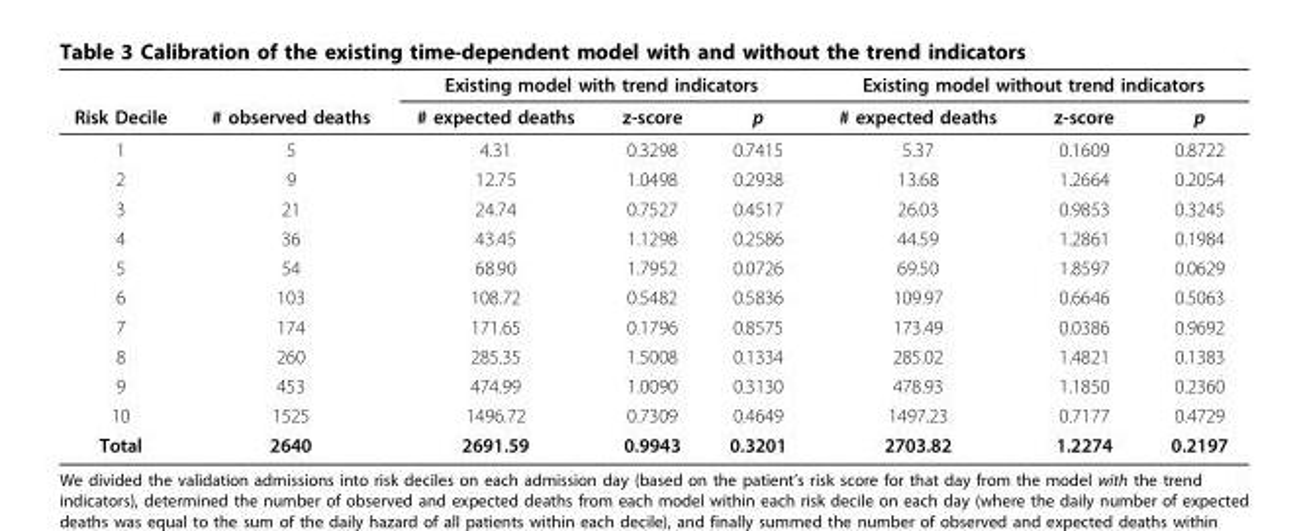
<table><thead><tr><td rowspan="2">Risk Decile</td><td rowspan="2"># observed deaths</td><td colspan="3">Existing model with trend indicators</td><td colspan="3">Existing model without trend indicators</td></tr><tr><td># expected deaths</td><td>z-score</td><td>p</td><td># expected deaths</td><td>z-score</td><td>p</td></tr></thead><tbody><tr><td>1</td><td>5</td><td>4.31</td><td>0.3298</td><td>0.7415</td><td>5.37</td><td>0.1609</td><td>0.8722</td></tr><tr><td>2</td><td>9</td><td>12.75</td><td>1.0498</td><td>0.2938</td><td>13.68</td><td>1.2664</td><td>0.2054</td></tr><tr><td>3</td><td>21</td><td>24.74</td><td>0.7527</td><td>0.4517</td><td>26.03</td><td>0.9853</td><td>0.3245</td></tr><tr><td>4</td><td>36</td><td>43.45</td><td>1.1298</td><td>0.2586</td><td>44.59</td><td>1.2861</td><td>0.1984</td></tr><tr><td>5</td><td>54</td><td>68.90</td><td>1.7952</td><td>0.0726</td><td>69.50</td><td>1.8597</td><td>0.0629</td></tr><tr><td>6</td><td>103</td><td>108.72</td><td>0.5482</td><td>0.5836</td><td>109.97</td><td>0.6646</td><td>0.5063</td></tr><tr><td>7</td><td>174</td><td>171.65</td><td>0.1796</td><td>0.8575</td><td>173.49</td><td>0.0386</td><td>0.9692</td></tr><tr><td>8</td><td>260</td><td>285.35</td><td>1.5008</td><td>0.1334</td><td>285.02</td><td>1.4821</td><td>0.1383</td></tr><tr><td>9</td><td>453</td><td>474.99</td><td>1.0090</td><td>0.3130</td><td>478.93</td><td>1.1850</td><td>0.2360</td></tr><tr><td>10</td><td>1525</td><td>1496.72</td><td>0.7309</td><td>0.4649</td><td>1497.23</td><td>0.7177</td><td>0.4729</td></tr><tr><td>Total</td><td>2640</td><td>2691.59</td><td>0.9943</td><td>0.3201</td><td>2703.82</td><td>1.2274</td><td>0.2197</td></tr></tbody></table>